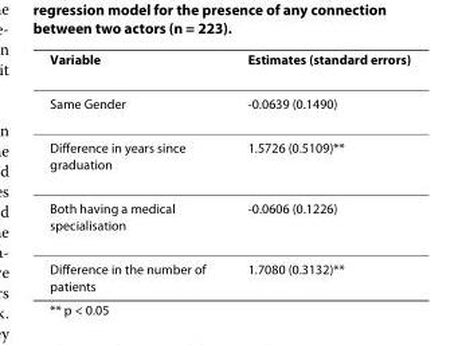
<table><thead><tr><td>Variable</td><td>Estimates (standard errors)</td></tr></thead><tbody><tr><td>Same Gender</td><td>-0.0639 (0.1490)</td></tr><tr><td>Difference in years since graduation</td><td>1.5726 (0.5109)**</td></tr><tr><td>Both having a medical specialisation</td><td>-0.0606 (0.1226)</td></tr><tr><td>Difference in the number of patients</td><td>1.7080 (0.3132)**</td></tr></tbody></table>